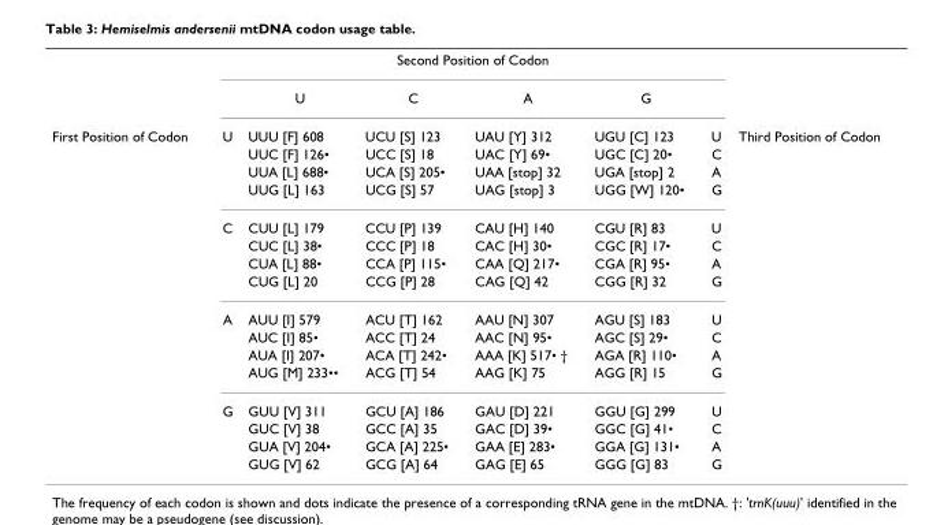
<table><thead><tr><td rowspan="2"></td><td rowspan="2"></td><td colspan="4">Second Position of Codon</td><td rowspan="2"></td><td rowspan="2"></td></tr><tr><td>U</td><td>C</td><td>A</td><td>G</td></tr></thead><tbody><tr><td rowspan="16">First Position of Codon</td><td>U</td><td>UUU [F] 608</td><td>UCU [S] 123</td><td>UAU [Y] 312</td><td>UGU [C] 123</td><td>U</td><td>Third Position of Codon</td></tr><tr><td></td><td>UUC [F] 126•</td><td>UCC [S] 18</td><td>UAC [Y] 69•</td><td>UGC [C] 20•</td><td>C</td><td></td></tr><tr><td></td><td>UUA [L] 688•</td><td>UCA [S] 205•</td><td>UAA [stop] 32</td><td>UGA [stop] 2</td><td>A</td><td></td></tr><tr><td></td><td>UUG [L] 163</td><td>UCG [S] 57</td><td>UAG [stop] 3</td><td>UGG [W] 120•</td><td>G</td><td></td></tr><tr><td>C</td><td>CUU [L] 179</td><td>CCU [P] 139</td><td>CAU [H] 140</td><td>CGU [R] 83</td><td>U</td><td></td></tr><tr><td></td><td>CUC [L] 38•</td><td>CCC [P] 18</td><td>CAC [H] 30•</td><td>CGC [R] 17•</td><td>C</td><td></td></tr><tr><td></td><td>CUA [L] 88•</td><td>CCA [P] 115•</td><td>CAA [Q] 217•</td><td>CGA [R] 95•</td><td>A</td><td></td></tr><tr><td></td><td>CUG [L] 20</td><td>CCG [P] 28</td><td>CAG [Q] 42</td><td>CGG [R] 32</td><td>G</td><td></td></tr><tr><td>A</td><td>AUU [I] 579</td><td>ACU [T] 162</td><td>AAU [N] 307</td><td>AGU [S] 183</td><td>U</td><td></td></tr><tr><td></td><td>AUC [I] 85•</td><td>ACC [T] 24</td><td>AAC [N] 95•</td><td>AGC [S] 29•</td><td>C</td><td></td></tr><tr><td></td><td>AUA [I] 207•</td><td>ACA [T] 242•</td><td>AAA [K] 517• †</td><td>AGA [R] 110•</td><td>A</td><td></td></tr><tr><td></td><td>AUG [M] 233••</td><td>ACG [T] 54</td><td>AAG [K] 75</td><td>AGG [R] 15</td><td>G</td><td></td></tr><tr><td>G</td><td>GUU [V] 311</td><td>GCU [A] 186</td><td>GAU [D] 221</td><td>GGU [G] 299</td><td>U</td><td></td></tr><tr><td></td><td>GUC [V] 38</td><td>GCC [A] 35</td><td>GAC [D] 39•</td><td>GGC [G] 41•</td><td>C</td><td></td></tr><tr><td></td><td>GUA [V] 204•</td><td>GCA [A] 225•</td><td>GAA [E] 283•</td><td>GGA [G] 131•</td><td>A</td><td></td></tr><tr><td></td><td>GUG [V] 62</td><td>GCG [A] 64</td><td>GAG [E] 65</td><td>GGG [G] 83</td><td>G</td><td></td></tr></tbody></table>